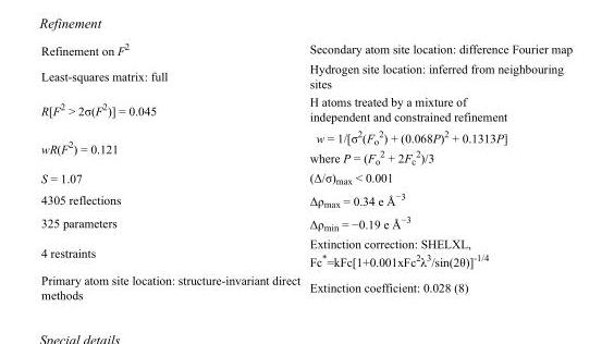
<table><tbody><tr><td>Refinement on F<sup>2</sup></td><td>Secondary atom site location: difference Fourier map</td></tr><tr><td>Least-squares matrix: full</td><td>Hydrogen site location: inferred from neighbouring sites</td></tr><tr><td>R[F<sup>2</sup> &gt; 2σ(F<sup>2</sup>)] = 0.045</td><td>H atoms treated by a mixture of independent and constrained refinement</td></tr><tr><td>wR(F<sup>2</sup>) = 0.121</td><td>w = 1/[σ<sup>2</sup>(F<sub>o</sub> <sup>2</sup>) + (0.068P)<sup>2</sup> + 0.1313P] where P = (F<sub>o</sub> <sup>2</sup> + 2F<sub>c</sub> <sup>2</sup>)/3</td></tr><tr><td>S = 1.07</td><td>(Δ/σ)<sub>max</sub> &lt; 0.001</td></tr><tr><td>4305 reflections</td><td>Δρ<sub>max</sub> = 0.34 e Å<sup>−3</sup></td></tr><tr><td>325 parameters</td><td>Δρ<sub>min</sub> = −0.19 e Å<sup>−3</sup></td></tr><tr><td>4 restraints</td><td>Extinction correction: SHELXL, Fc*=kFc[1+0.001xFc<sup>2</sup>λ<sup>3</sup>/sin(2θ)]<sup>-1/4</sup></td></tr><tr><td>Primary atom site location: structure-invariant direct methods</td><td>Extinction coefficient: 0.028 (8)</td></tr></tbody></table>